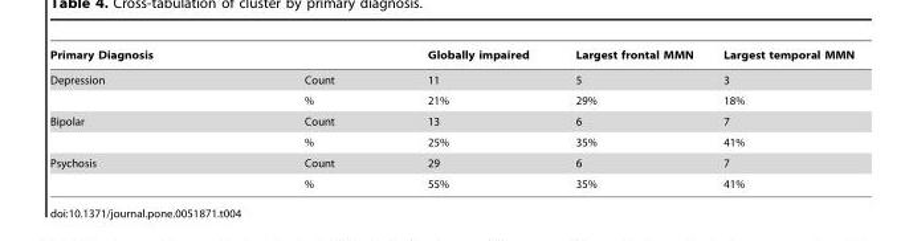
<table><thead><tr><td>Primary Diagnosis</td><td></td><td>Globally impaired</td><td>Largest frontal MMN</td><td>Largest temporal MMN</td></tr></thead><tbody><tr><td rowspan="2">Depression</td><td>Count</td><td>11</td><td>5</td><td>3</td></tr><tr><td>%</td><td>21%</td><td>29%</td><td>18%</td></tr><tr><td rowspan="2">Bipolar</td><td>Count</td><td>13</td><td>6</td><td>7</td></tr><tr><td>%</td><td>25%</td><td>35%</td><td>41%</td></tr><tr><td rowspan="2">Psychosis</td><td>Count</td><td>29</td><td>6</td><td>7</td></tr><tr><td>%</td><td>55%</td><td>35%</td><td>41%</td></tr></tbody></table>